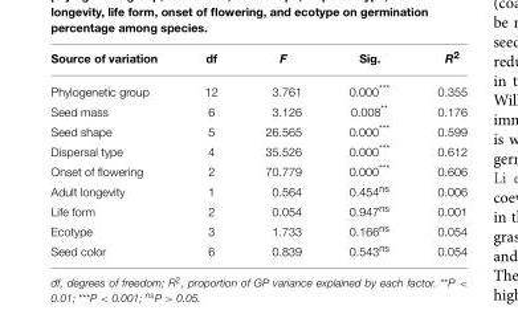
<table><thead><tr><td>Source of variation</td><td>df</td><td>F</td><td>Sig.</td><td>R<sup>2</sup></td></tr></thead><tbody><tr><td>Phylogenetic group</td><td>12</td><td>3.761</td><td>0.000***</td><td>0.355</td></tr><tr><td>Seed mass</td><td>6</td><td>3.126</td><td>0.008**</td><td>0.176</td></tr><tr><td>Seed shape</td><td>5</td><td>26.565</td><td>0.000***</td><td>0.599</td></tr><tr><td>Dispersal type</td><td>4</td><td>35.526</td><td>0.000***</td><td>0.612</td></tr><tr><td>Onset of flowering</td><td>2</td><td>70.779</td><td>0.000***</td><td>0.606</td></tr><tr><td>Adult longevity</td><td>1</td><td>0.564</td><td>0.454<sup>ns</sup></td><td>0.006</td></tr><tr><td>Life form</td><td>2</td><td>0.054</td><td>0.947<sup>ns</sup></td><td>0.001</td></tr><tr><td>Ecotype</td><td>3</td><td>1.733</td><td>0.166<sup>ns</sup></td><td>0.054</td></tr><tr><td>Seed color</td><td>6</td><td>0.839</td><td>0.543<sup>ns</sup></td><td>0.054</td></tr></tbody></table>